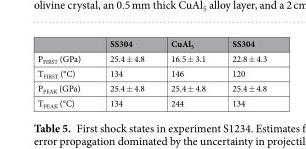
<table><thead><tr><td></td><td>SS304</td><td>CuAl<sub>5</sub></td><td>SS304</td></tr></thead><tbody><tr><td>P<sub>FIRST</sub> (GPa)</td><td>25.4 ± 4.8</td><td>16.5 ± 3.1</td><td>22.8 ± 4.3</td></tr><tr><td>T<sub>FIRST</sub> (°C)</td><td>134</td><td>146</td><td>120</td></tr><tr><td>P<sub>PEAK</sub> (GPa)</td><td>25.4 ± 4.8</td><td>25.4 ± 4.8</td><td>25.4 ± 4.8</td></tr><tr><td>T<sub>PEAK</sub> (°C)</td><td>134</td><td>244</td><td>134</td></tr></tbody></table>